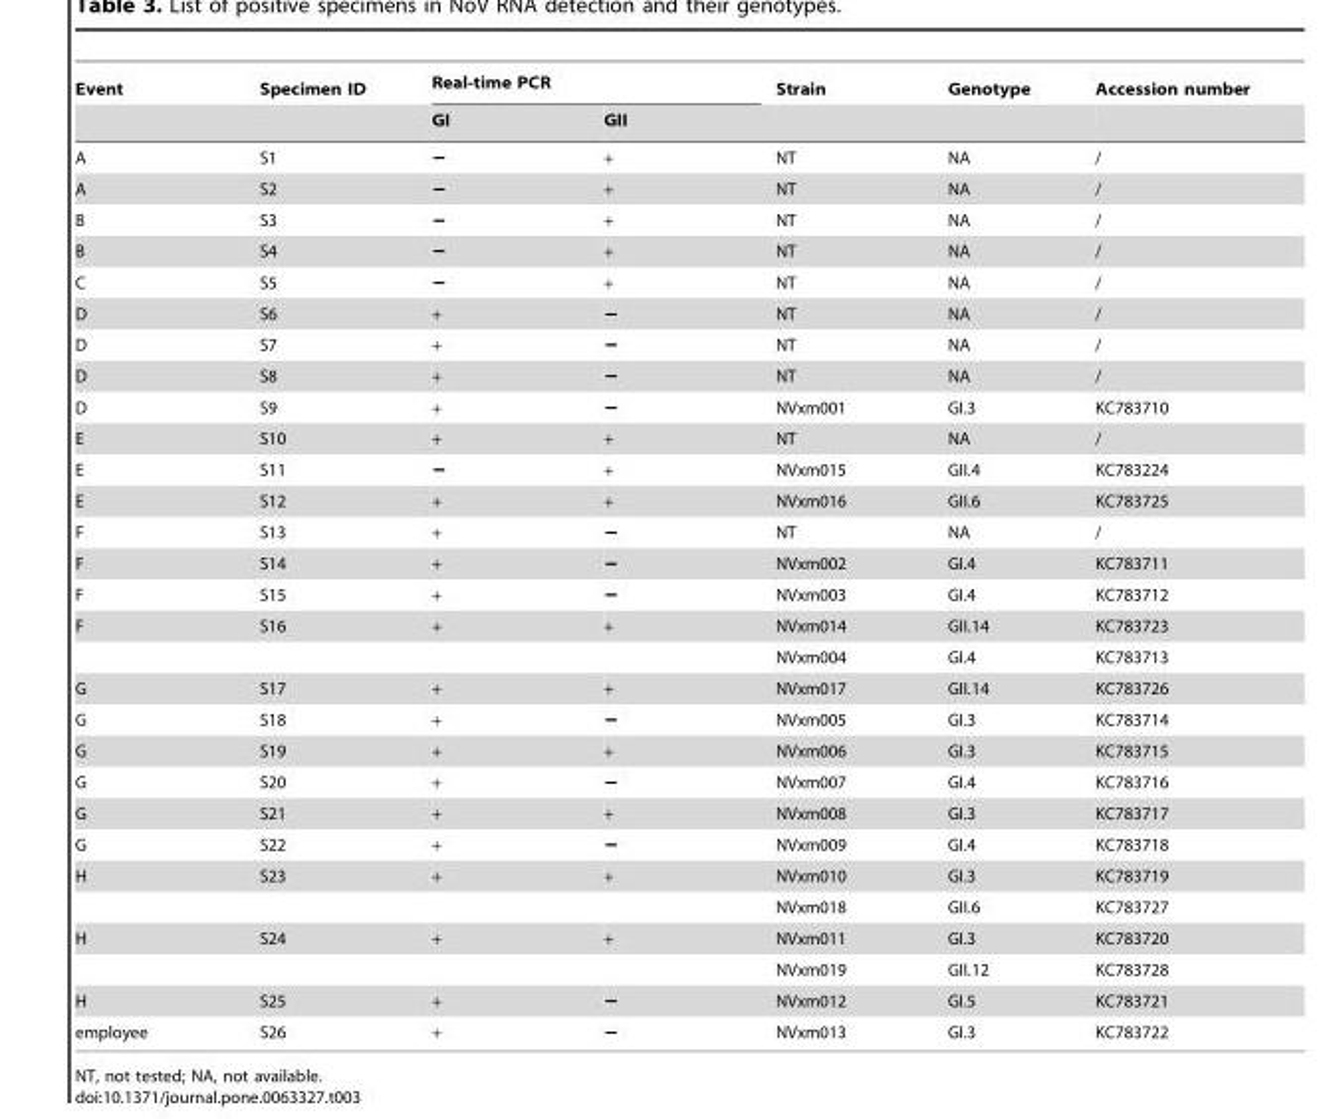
<table><thead><tr><td rowspan="2">Event</td><td rowspan="2">Specimen ID</td><td colspan="2">Real-time PCR</td><td rowspan="2">Strain</td><td rowspan="2">Genotype</td><td rowspan="2">Accession number</td></tr><tr><td>GI</td><td>GII</td></tr></thead><tbody><tr><td>A</td><td>S1</td><td>−</td><td>+</td><td>NT</td><td>NA</td><td>/</td></tr><tr><td>A</td><td>S2</td><td>−</td><td>+</td><td>NT</td><td>NA</td><td>/</td></tr><tr><td>B</td><td>S3</td><td>−</td><td>+</td><td>NT</td><td>NA</td><td>/</td></tr><tr><td>B</td><td>S4</td><td>−</td><td>+</td><td>NT</td><td>NA</td><td>/</td></tr><tr><td>C</td><td>S5</td><td>−</td><td>+</td><td>NT</td><td>NA</td><td>/</td></tr><tr><td>D</td><td>S6</td><td>+</td><td>−</td><td>NT</td><td>NA</td><td>/</td></tr><tr><td>D</td><td>S7</td><td>+</td><td>−</td><td>NT</td><td>NA</td><td>/</td></tr><tr><td>D</td><td>S8</td><td>+</td><td>−</td><td>NT</td><td>NA</td><td>/</td></tr><tr><td>D</td><td>S9</td><td>+</td><td>−</td><td>NVxm001</td><td>GI.3</td><td>KC783710</td></tr><tr><td>E</td><td>S10</td><td>+</td><td>+</td><td>NT</td><td>NA</td><td>/</td></tr><tr><td>E</td><td>S11</td><td>−</td><td>+</td><td>NVxm015</td><td>GII.4</td><td>KC783224</td></tr><tr><td>E</td><td>S12</td><td>+</td><td>+</td><td>NVxm016</td><td>GII.6</td><td>KC783725</td></tr><tr><td>F</td><td>S13</td><td>+</td><td>−</td><td>NT</td><td>NA</td><td>/</td></tr><tr><td>F</td><td>S14</td><td>+</td><td>−</td><td>NVxm002</td><td>GI.4</td><td>KC783711</td></tr><tr><td>F</td><td>S15</td><td>+</td><td>−</td><td>NVxm003</td><td>GI.4</td><td>KC783712</td></tr><tr><td rowspan="2">F</td><td>S16</td><td>+</td><td>+</td><td>NVxm014</td><td>GII.14</td><td>KC783723</td></tr><tr><td></td><td></td><td></td><td>NVxm004</td><td>GI.4</td><td>KC783713</td></tr><tr><td>G</td><td>S17</td><td>+</td><td>+</td><td>NVxm017</td><td>GII.14</td><td>KC783726</td></tr><tr><td>G</td><td>S18</td><td>+</td><td>−</td><td>NVxm005</td><td>GI.3</td><td>KC783714</td></tr><tr><td>G</td><td>S19</td><td>+</td><td>+</td><td>NVxm006</td><td>GI.3</td><td>KC783715</td></tr><tr><td>G</td><td>S20</td><td>+</td><td>−</td><td>NVxm007</td><td>GI.4</td><td>KC783716</td></tr><tr><td>G</td><td>S21</td><td>+</td><td>+</td><td>NVxm008</td><td>GI.3</td><td>KC783717</td></tr><tr><td>G</td><td>S22</td><td>+</td><td>−</td><td>NVxm009</td><td>GI.4</td><td>KC783718</td></tr><tr><td rowspan="2">H</td><td>S23</td><td>+</td><td>+</td><td>NVxm010</td><td>GI.3</td><td>KC783719</td></tr><tr><td></td><td></td><td></td><td>NVxm018</td><td>GII.6</td><td>KC783727</td></tr><tr><td rowspan="2">H</td><td>S24</td><td>+</td><td>+</td><td>NVxm011</td><td>GI.3</td><td>KC783720</td></tr><tr><td></td><td></td><td></td><td>NVxm019</td><td>GII.12</td><td>KC783728</td></tr><tr><td>H</td><td>S25</td><td>+</td><td>−</td><td>NVxm012</td><td>GI.5</td><td>KC783721</td></tr><tr><td>employee</td><td>S26</td><td>+</td><td>−</td><td>NVxm013</td><td>GI.3</td><td>KC783722</td></tr></tbody></table>